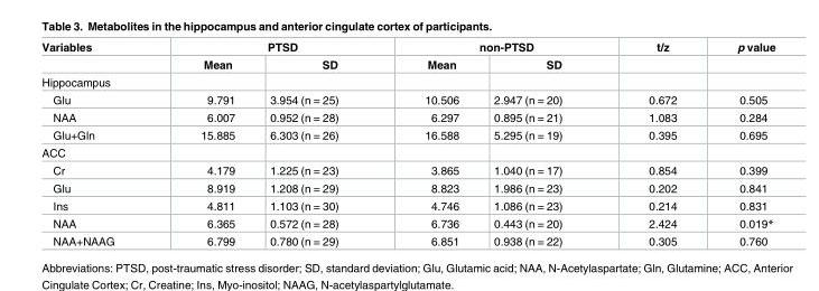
<table><thead><tr><td rowspan="2">Variables</td><td colspan="2">PTSD</td><td colspan="2">non-PTSD</td><td rowspan="2">t/z</td><td rowspan="2">p value</td></tr><tr><td>Mean</td><td>SD</td><td>Mean</td><td>SD</td></tr></thead><tbody><tr><td colspan="7">Hippocampus</td></tr><tr><td>Glu</td><td>9.791</td><td>3.954 (n = 25)</td><td>10.506</td><td>2.947 (n = 20)</td><td>0.672</td><td>0.505</td></tr><tr><td>NAA</td><td>6.007</td><td>0.952 (n = 28)</td><td>6.297</td><td>0.895 (n = 21)</td><td>1.083</td><td>0.284</td></tr><tr><td>Glu+Gln</td><td>15.885</td><td>6.303 (n = 26)</td><td>16.588</td><td>5.295 (n = 19)</td><td>0.395</td><td>0.695</td></tr><tr><td colspan="7">ACC</td></tr><tr><td>Cr</td><td>4.179</td><td>1.225 (n = 23)</td><td>3.865</td><td>1.040 (n = 17)</td><td>0.854</td><td>0.399</td></tr><tr><td>Glu</td><td>8.919</td><td>1.208 (n = 29)</td><td>8.823</td><td>1.986 (n = 23)</td><td>0.202</td><td>0.841</td></tr><tr><td>Ins</td><td>4.811</td><td>1.103 (n = 30)</td><td>4.746</td><td>1.086 (n = 23)</td><td>0.214</td><td>0.831</td></tr><tr><td>NAA</td><td>6.365</td><td>0.572 (n = 28)</td><td>6.736</td><td>0.443 (n = 20)</td><td>2.424</td><td>0.019*</td></tr><tr><td>NAA+NAAG</td><td>6.799</td><td>0.780 (n = 29)</td><td>6.851</td><td>0.938 (n = 22)</td><td>0.305</td><td>0.760</td></tr></tbody></table>